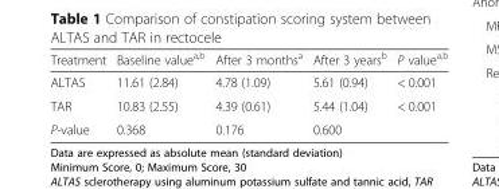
<table><thead><tr><td>Treatment</td><td>Baseline value<sup>a,b</sup></td><td>After 3 months<sup>a</sup></td><td>After 3 years<sup>b</sup></td><td>P value<sup>a,b</sup></td></tr></thead><tbody><tr><td>ALTAS</td><td>11.61 (2.84)</td><td>4.78 (1.09)</td><td>5.61 (0.94)</td><td>&lt; 0.001</td></tr><tr><td>TAR</td><td>10.83 (2.55)</td><td>4.39 (0.61)</td><td>5.44 (1.04)</td><td>&lt; 0.001</td></tr><tr><td>P-value</td><td>0.368</td><td>0.176</td><td>0.600</td><td></td></tr></tbody></table>